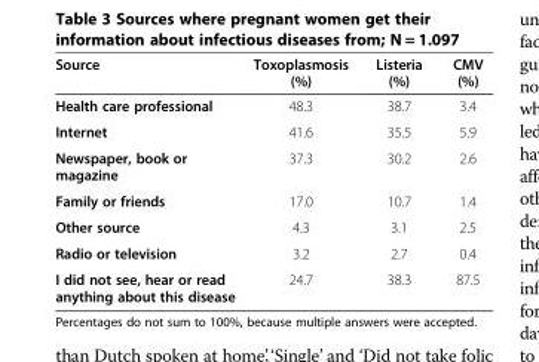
<table><thead><tr><td>Source</td><td>Toxoplasmosis (%)</td><td>Listeria (%)</td><td>CMV (%)</td></tr></thead><tbody><tr><td>Health care professional</td><td>48.3</td><td>38.7</td><td>3.4</td></tr><tr><td>Internet</td><td>41.6</td><td>35.5</td><td>5.9</td></tr><tr><td>Newspaper, book or magazine</td><td>37.3</td><td>30.2</td><td>2.6</td></tr><tr><td>Family or friends</td><td>17.0</td><td>10.7</td><td>1.4</td></tr><tr><td>Other source</td><td>4.3</td><td>3.1</td><td>2.5</td></tr><tr><td>Radio or television</td><td>3.2</td><td>2.7</td><td>0.4</td></tr><tr><td>I did not see, hear or read anything about this disease</td><td>24.7</td><td>38.3</td><td>87.5</td></tr></tbody></table>